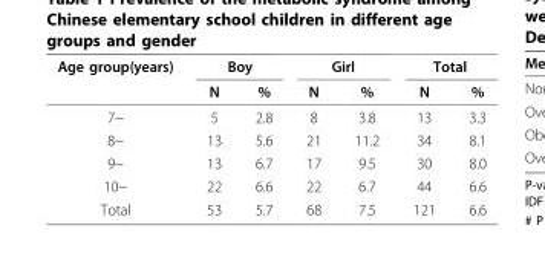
<table><thead><tr><td rowspan="2">Age group(years)</td><td colspan="2">Boy</td><td colspan="2">Girl</td><td colspan="2">Total</td></tr><tr><td>N</td><td>%</td><td>N</td><td>%</td><td>N</td><td>%</td></tr></thead><tbody><tr><td>7~</td><td>5</td><td>2.8</td><td>8</td><td>3.8</td><td>13</td><td>3.3</td></tr><tr><td>8~</td><td>13</td><td>5.6</td><td>21</td><td>11.2</td><td>34</td><td>8.1</td></tr><tr><td>9~</td><td>13</td><td>6.7</td><td>17</td><td>9.5</td><td>30</td><td>8.0</td></tr><tr><td>10~</td><td>22</td><td>6.6</td><td>22</td><td>6.7</td><td>44</td><td>6.6</td></tr><tr><td>Total</td><td>53</td><td>5.7</td><td>68</td><td>7.5</td><td>121</td><td>6.6</td></tr></tbody></table>